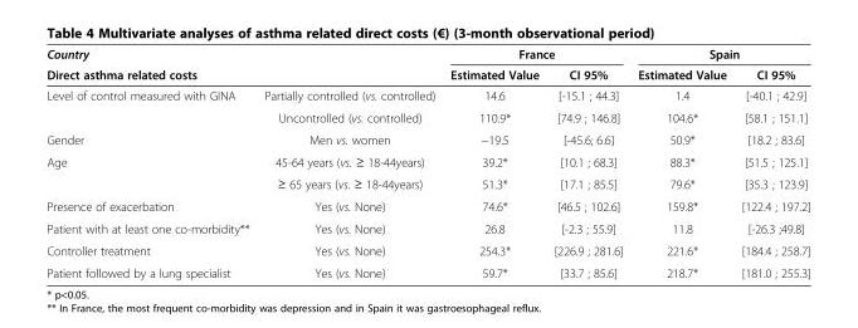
<table><thead><tr><td>Country</td><td></td><td colspan="2">France</td><td colspan="2">Spain</td></tr><tr><td colspan="2">Direct asthma related costs</td><td>Estimated Value</td><td>CI 95%</td><td>Estimated Value</td><td>CI 95%</td></tr></thead><tbody><tr><td rowspan="2">Level of control measured with GINA</td><td>Partially controlled (vs. controlled)</td><td>14.6</td><td>[-15.1 ; 44.3]</td><td>1.4</td><td>[-40.1 ; 42.9]</td></tr><tr><td>Uncontrolled (vs. controlled)</td><td>110.9*</td><td>[74.9 ; 146.8]</td><td>104.6*</td><td>[58.1 ; 151.1]</td></tr><tr><td>Gender</td><td>Men vs. women</td><td>−19.5</td><td>[-45.6; 6.6]</td><td>50.9*</td><td>[18.2 ; 83.6]</td></tr><tr><td rowspan="2">Age</td><td>45-64 years (vs. ≥ 18-44years)</td><td>39.2*</td><td>[10.1 ; 68.3]</td><td>88.3*</td><td>[51.5 ; 125.1]</td></tr><tr><td>≥ 65 years (vs. ≥ 18-44years)</td><td>51.3*</td><td>[17.1 ; 85.5]</td><td>79.6*</td><td>[35.3 ; 123.9]</td></tr><tr><td>Presence of exacerbation</td><td>Yes (vs. None)</td><td>74.6*</td><td>[46.5 ; 102.6]</td><td>159.8*</td><td>[122.4 ; 197.2]</td></tr><tr><td>Patient with at least one co-morbidity**</td><td>Yes (vs. None)</td><td>26.8</td><td>[-2.3 ; 55.9]</td><td>11.8</td><td>[-26.3 ;49.8]</td></tr><tr><td>Controller treatment</td><td>Yes (vs. None)</td><td>254.3*</td><td>[226.9 ; 281.6]</td><td>221.6*</td><td>[184.4 ; 258.7]</td></tr><tr><td>Patient followed by a lung specialist</td><td>Yes (vs. None)</td><td>59.7*</td><td>[33.7 ; 85.6]</td><td>218.7*</td><td>[181.0 ; 255.3]</td></tr></tbody></table>